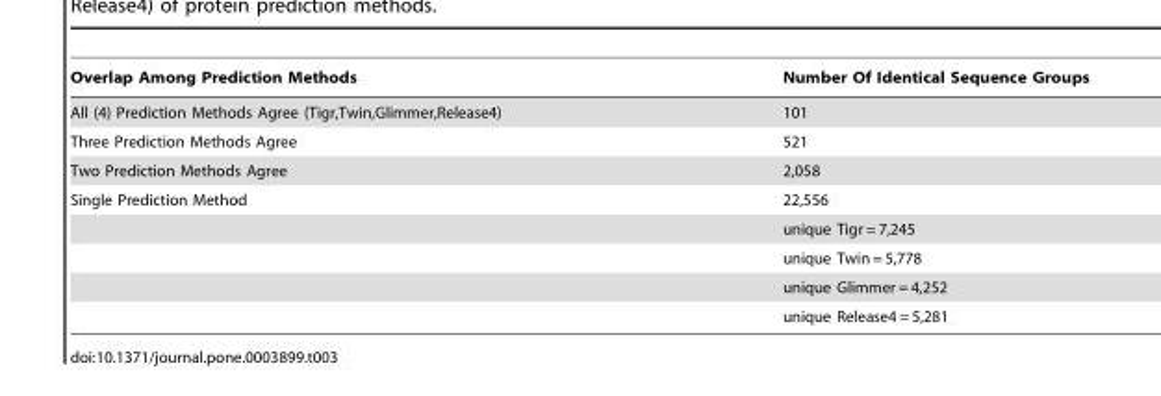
<table><thead><tr><td>Overlap Among Prediction Methods</td><td>Number Of Identical Sequence Groups</td></tr></thead><tbody><tr><td>All (4) Prediction Methods Agree (Tigr,Twin,Glimmer,Release4)</td><td>101</td></tr><tr><td>Three Prediction Methods Agree</td><td>521</td></tr><tr><td>Two Prediction Methods Agree</td><td>2,058</td></tr><tr><td rowspan="5">Single Prediction Method</td><td>22,556</td></tr><tr><td>unique Tigr = 7,245</td></tr><tr><td>unique Twin = 5,778</td></tr><tr><td>unique Glimmer = 4,252</td></tr><tr><td>unique Release4 = 5,281</td></tr></tbody></table>